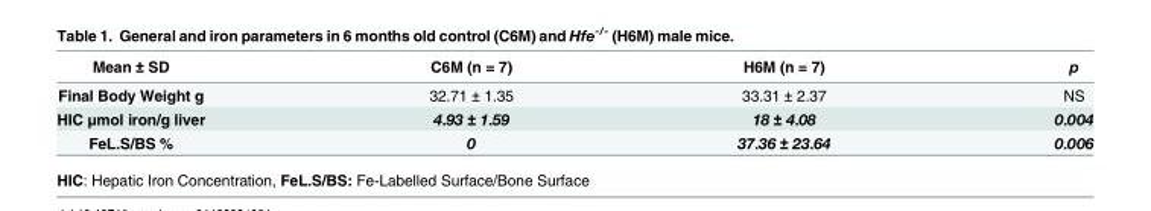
<table><thead><tr><td>Mean ± SD</td><td>C6M (n = 7)</td><td>H6M (n = 7)</td><td>p</td></tr></thead><tbody><tr><td>Final Body Weight g</td><td>32.71 ± 1.35</td><td>33.31 ± 2.37</td><td>NS</td></tr><tr><td>HIC μmol iron/g liver</td><td>4.93 ± 1.59</td><td>18 ± 4.08</td><td>0.004</td></tr><tr><td>FeL.S/BS %</td><td>0</td><td>37.36 ± 23.64</td><td>0.006</td></tr></tbody></table>